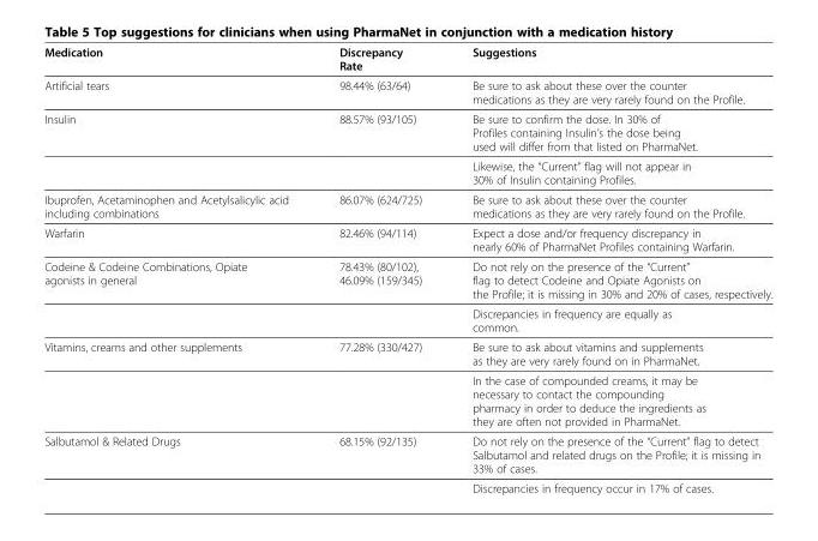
<table><thead><tr><td>Medication</td><td>Discrepancy Rate</td><td>Suggestions</td></tr></thead><tbody><tr><td>Artificial tears</td><td>98.44% (63/64)</td><td>Be sure to ask about these over the counter medications as they are very rarely found on the Profile.</td></tr><tr><td rowspan="2">Insulin</td><td>88.57% (93/105)</td><td>Be sure to confirm the dose. In 30% of Profiles containing Insulin’s the dose being used will differ from that listed on PharmaNet.</td></tr><tr><td></td><td>Likewise, the “Current” flag will not appear in 30% of Insulin containing Profiles.</td></tr><tr><td>Ibuprofen, Acetaminophen and Acetylsalicylic acid including combinations</td><td>86.07% (624/725)</td><td>Be sure to ask about these over the counter medications as they are very rarely found on the Profile.</td></tr><tr><td>Warfarin</td><td>82.46% (94/114)</td><td>Expect a dose and/or frequency discrepancy in nearly 60% of PharmaNet Profiles containing Warfarin.</td></tr><tr><td rowspan="2">Codeine &amp; Codeine Combinations, Opiate agonists in general</td><td>78.43% (80/102), 46.09% (159/345)</td><td>Do not rely on the presence of the “Current” flag to detect Codeine and Opiate Agonists on the Profile; it is missing in 30% and 20% of cases, respectively.</td></tr><tr><td></td><td>Discrepancies in frequency are equally as common.</td></tr><tr><td rowspan="2">Vitamins, creams and other supplements</td><td>77.28% (330/427)</td><td>Be sure to ask about vitamins and supplements as they are very rarely found on in PharmaNet.</td></tr><tr><td></td><td>In the case of compounded creams, it may be necessary to contact the compounding pharmacy in order to deduce the ingredients as they are often not provided in PharmaNet.</td></tr><tr><td rowspan="2">Salbutamol &amp; Related Drugs</td><td>68.15% (92/135)</td><td>Do not rely on the presence of the “Current” flag to detect Salbutamol and related drugs on the Profile; it is missing in 33% of cases.</td></tr><tr><td></td><td>Discrepancies in frequency occur in 17% of cases.</td></tr></tbody></table>